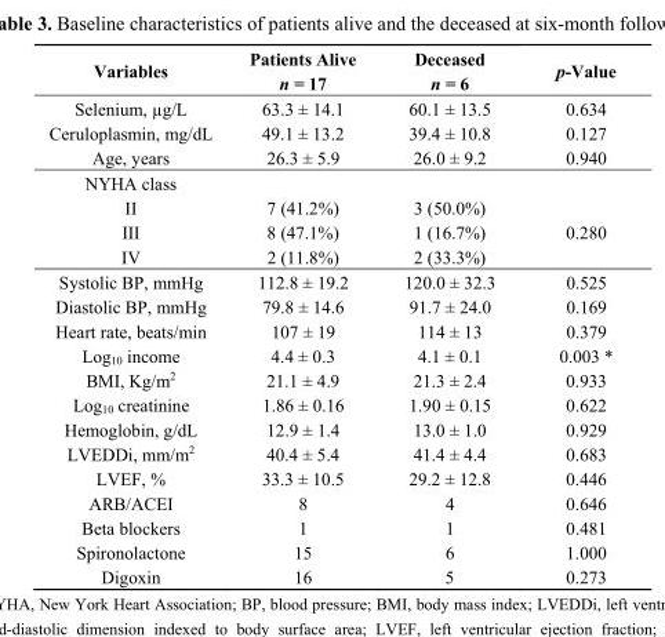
<table><thead><tr><td>Variables</td><td>Patients Alive n = 17</td><td>Deceased n = 6</td><td>p-Value</td></tr></thead><tbody><tr><td>Selenium, µg/L</td><td>63.3 ± 14.1</td><td>60.1 ± 13.5</td><td>0.634</td></tr><tr><td>Ceruloplasmin, mg/dL</td><td>49.1 ± 13.2</td><td>39.4 ± 10.8</td><td>0.127</td></tr><tr><td>Age, years</td><td>26.3 ± 5.9</td><td>26.0 ± 9.2</td><td>0.940</td></tr><tr><td colspan="4">NYHA class</td></tr><tr><td>II</td><td>7 (41.2%)</td><td>3 (50.0%)</td><td rowspan="3">0.280</td></tr><tr><td>III</td><td>8 (47.1%)</td><td>1 (16.7%)</td></tr><tr><td>IV</td><td>2 (11.8%)</td><td>2 (33.3%)</td></tr><tr><td>Systolic BP, mmHg</td><td>112.8 ± 19.2</td><td>120.0 ± 32.3</td><td>0.525</td></tr><tr><td>Diastolic BP, mmHg</td><td>79.8 ± 14.6</td><td>91.7 ± 24.0</td><td>0.169</td></tr><tr><td>Heart rate, beats/min</td><td>107 ± 19</td><td>114 ± 13</td><td>0.379</td></tr><tr><td>Log<sub>10</sub> income</td><td>4.4 ± 0.3</td><td>4.1 ± 0.1</td><td>0.003 *</td></tr><tr><td>BMI, Kg/m<sup>2</sup></td><td>21.1 ± 4.9</td><td>21.3 ± 2.4</td><td>0.933</td></tr><tr><td>Log<sub>10</sub> creatinine</td><td>1.86 ± 0.16</td><td>1.90 ± 0.15</td><td>0.622</td></tr><tr><td>Hemoglobin, g/dL</td><td>12.9 ± 1.4</td><td>13.0 ± 1.0</td><td>0.929</td></tr><tr><td>LVEDDi, mm/m<sup>2</sup></td><td>40.4 ± 5.4</td><td>41.4 ± 4.4</td><td>0.683</td></tr><tr><td>LVEF, %</td><td>33.3 ± 10.5</td><td>29.2 ± 12.8</td><td>0.446</td></tr><tr><td>ARB/ACEI</td><td>8</td><td>4</td><td>0.646</td></tr><tr><td>Beta blockers</td><td>1</td><td>1</td><td>0.481</td></tr><tr><td>Spironolactone</td><td>15</td><td>6</td><td>1.000</td></tr><tr><td>Digoxin</td><td>16</td><td>5</td><td>0.273</td></tr></tbody></table>